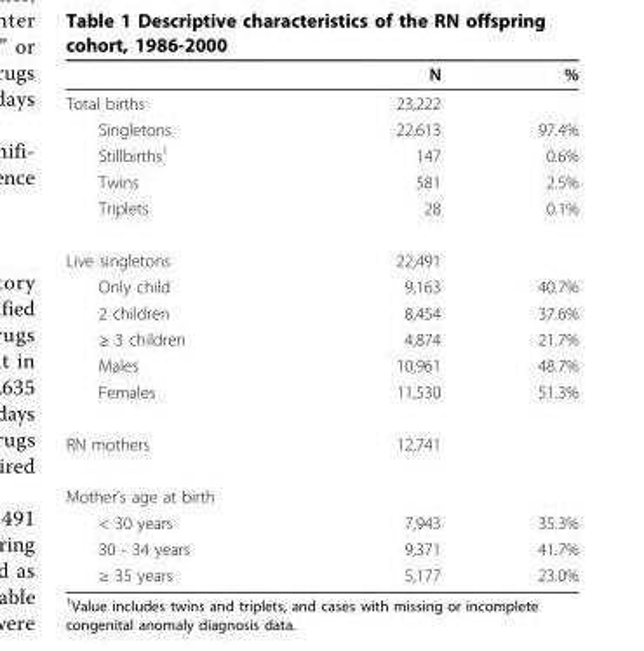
<table><thead><tr><td></td><td>N</td><td>%</td></tr></thead><tbody><tr><td>Total births</td><td>23,222</td><td></td></tr><tr><td>Singletons</td><td>22,613</td><td>97.4%</td></tr><tr><td>Stillbirths<sup>1</sup></td><td>147</td><td>0.6%</td></tr><tr><td>Twins</td><td>581</td><td>2.5%</td></tr><tr><td>Triplets</td><td>28</td><td>0.1%</td></tr><tr><td>Live singletons</td><td>22,491</td><td></td></tr><tr><td>Only child</td><td>9,163</td><td>40.7%</td></tr><tr><td>2 children</td><td>8,454</td><td>37.6%</td></tr><tr><td>≥ 3 children</td><td>4,874</td><td>21.7%</td></tr><tr><td>Males</td><td>10,961</td><td>48.7%</td></tr><tr><td>Females</td><td>11,530</td><td>51.3%</td></tr><tr><td>RN mothers</td><td>12,741</td><td></td></tr><tr><td colspan="3">Mother’s age at birth</td></tr><tr><td>&lt; 30 years</td><td>7,943</td><td>35.3%</td></tr><tr><td>30 - 34 years</td><td>9,371</td><td>41.7%</td></tr><tr><td>≥ 35 years</td><td>5,177</td><td>23.0%</td></tr></tbody></table>